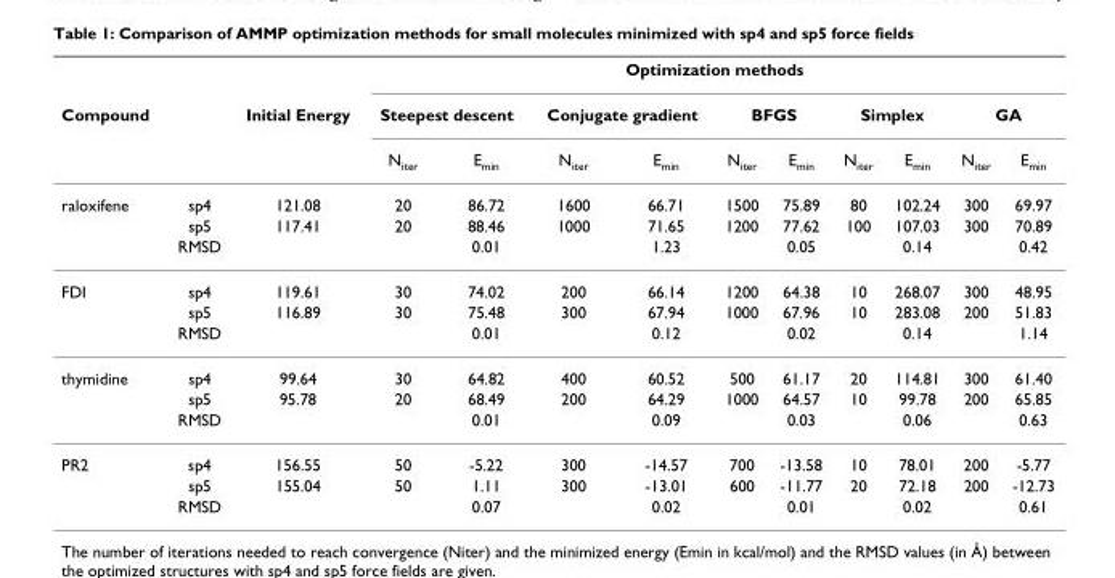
<table><thead><tr><td rowspan="3">Compound</td><td rowspan="3"></td><td rowspan="3">Initial Energy</td><td colspan="10">Optimization methods</td></tr><tr><td colspan="2">Steepest descent</td><td colspan="2">Conjugate gradient</td><td colspan="2">BFGS</td><td colspan="2">Simplex</td><td colspan="2">GA</td></tr><tr><td>N<sub>iter</sub></td><td>E<sub>min</sub></td><td>N<sub>iter</sub></td><td>E<sub>min</sub></td><td>N<sub>iter</sub></td><td>E<sub>min</sub></td><td>N<sub>iter</sub></td><td>E<sub>min</sub></td><td>N<sub>iter</sub></td><td>E<sub>min</sub></td></tr></thead><tbody><tr><td rowspan="3">raloxifene</td><td>sp4</td><td>121.08</td><td>20</td><td>86.72</td><td>1600</td><td>66.71</td><td>1500</td><td>75.89</td><td>80</td><td>102.24</td><td>300</td><td>69.97</td></tr><tr><td>sp5</td><td>117.41</td><td>20</td><td>88.46</td><td>1000</td><td>71.65</td><td>1200</td><td>77.62</td><td>100</td><td>107.03</td><td>300</td><td>70.89</td></tr><tr><td>RMSD</td><td></td><td></td><td>0.01</td><td></td><td>1.23</td><td></td><td>0.05</td><td></td><td>0.14</td><td></td><td>0.42</td></tr><tr><td rowspan="3">FDI</td><td>sp4</td><td>119.61</td><td>30</td><td>74.02</td><td>200</td><td>66.14</td><td>1200</td><td>64.38</td><td>10</td><td>268.07</td><td>300</td><td>48.95</td></tr><tr><td>sp5</td><td>116.89</td><td>30</td><td>75.48</td><td>300</td><td>67.94</td><td>1000</td><td>67.96</td><td>10</td><td>283.08</td><td>200</td><td>51.83</td></tr><tr><td>RMSD</td><td></td><td></td><td>0.01</td><td></td><td>0.12</td><td></td><td>0.02</td><td></td><td>0.14</td><td></td><td>1.14</td></tr><tr><td rowspan="3">thymidine</td><td>sp4</td><td>99.64</td><td>30</td><td>64.82</td><td>400</td><td>60.52</td><td>500</td><td>61.17</td><td>20</td><td>114.81</td><td>300</td><td>61.40</td></tr><tr><td>sp5</td><td>95.78</td><td>20</td><td>68.49</td><td>200</td><td>64.29</td><td>1000</td><td>64.57</td><td>10</td><td>99.78</td><td>200</td><td>65.85</td></tr><tr><td>RMSD</td><td></td><td></td><td>0.01</td><td></td><td>0.09</td><td></td><td>0.03</td><td></td><td>0.06</td><td></td><td>0.63</td></tr><tr><td rowspan="3">PR2</td><td>sp4</td><td>156.55</td><td>50</td><td>-5.22</td><td>300</td><td>-14.57</td><td>700</td><td>-13.58</td><td>10</td><td>78.01</td><td>200</td><td>-5.77</td></tr><tr><td>sp5</td><td>155.04</td><td>50</td><td>1.11</td><td>300</td><td>-13.01</td><td>600</td><td>-11.77</td><td>20</td><td>72.18</td><td>200</td><td>-12.73</td></tr><tr><td>RMSD</td><td></td><td></td><td>0.07</td><td></td><td>0.02</td><td></td><td>0.01</td><td></td><td>0.02</td><td></td><td>0.61</td></tr></tbody></table>